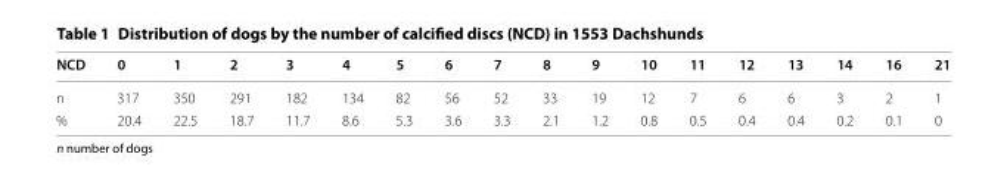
<table><thead><tr><td>NCD</td><td>0</td><td>1</td><td>2</td><td>3</td><td>4</td><td>5</td><td>6</td><td>7</td><td>8</td><td>9</td><td>10</td><td>11</td><td>12</td><td>13</td><td>14</td><td>16</td><td>21</td></tr></thead><tbody><tr><td>n</td><td>317</td><td>350</td><td>291</td><td>182</td><td>134</td><td>82</td><td>56</td><td>52</td><td>33</td><td>19</td><td>12</td><td>7</td><td>6</td><td>6</td><td>3</td><td>2</td><td>1</td></tr><tr><td>%</td><td>20.4</td><td>22.5</td><td>18.7</td><td>11.7</td><td>8.6</td><td>5.3</td><td>3.6</td><td>3.3</td><td>2.1</td><td>1.2</td><td>0.8</td><td>0.5</td><td>0.4</td><td>0.4</td><td>0.2</td><td>0.1</td><td>0</td></tr></tbody></table>